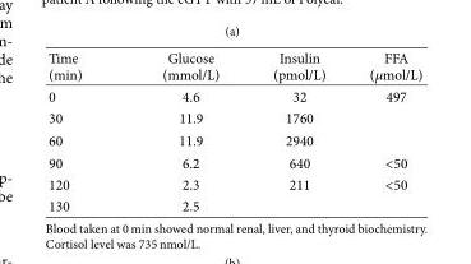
<table><thead><tr><td>Time (min)</td><td>Glucose (mmol/L)</td><td>Insulin (pmol/L)</td><td>FFA (𝜇𝜇mol/L)</td></tr></thead><tbody><tr><td>0</td><td>4.6</td><td>32</td><td>497</td></tr><tr><td>30</td><td>11.9</td><td>1760</td><td></td></tr><tr><td>60</td><td>11.9</td><td>2940</td><td></td></tr><tr><td>90</td><td>6.2</td><td>640</td><td>&lt;50</td></tr><tr><td>120</td><td>2.3</td><td>211</td><td>&lt;50</td></tr><tr><td>130</td><td>2.5</td><td></td><td></td></tr></tbody></table>